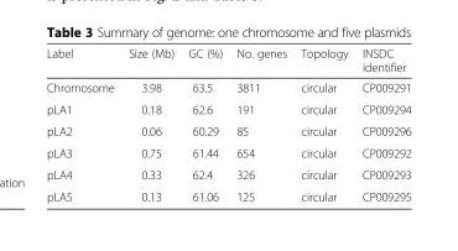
<table><thead><tr><td>Label</td><td>Size (Mb)</td><td>GC (%)</td><td>No. genes</td><td>Topology</td><td>INSDC identifier</td></tr></thead><tbody><tr><td>Chromosome</td><td>3.98</td><td>63.5</td><td>3811</td><td>circular</td><td>CP009291</td></tr><tr><td>pLA1</td><td>0.18</td><td>62.6</td><td>191</td><td>circular</td><td>CP009294</td></tr><tr><td>pLA2</td><td>0.06</td><td>60.29</td><td>85</td><td>circular</td><td>CP009296</td></tr><tr><td>pLA3</td><td>0.75</td><td>61.44</td><td>654</td><td>circular</td><td>CP009292</td></tr><tr><td>pLA4</td><td>0.33</td><td>62.4</td><td>326</td><td>circular</td><td>CP009293</td></tr><tr><td>pLA5</td><td>0.13</td><td>61.06</td><td>125</td><td>circular</td><td>CP009295</td></tr></tbody></table>